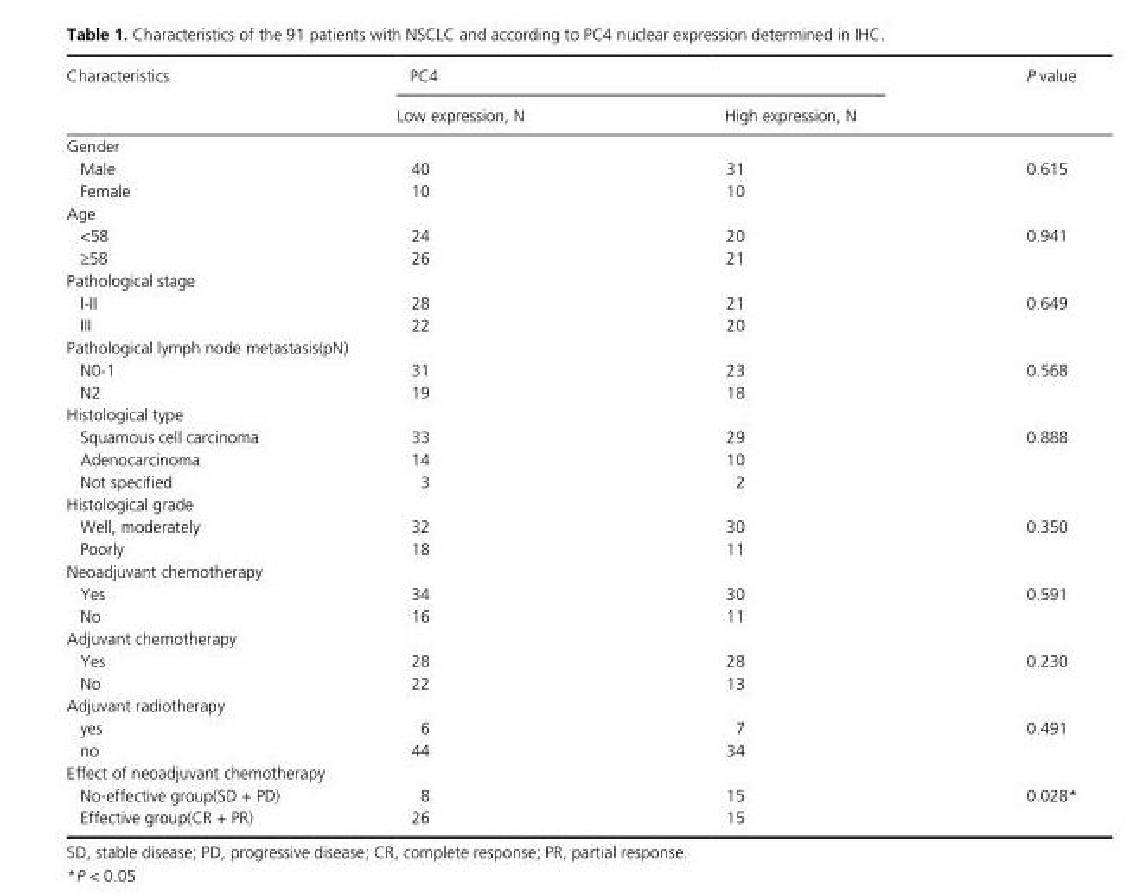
<table><thead><tr><td rowspan="2">Characteristics</td><td colspan="2">PC4</td><td rowspan="2">P value</td></tr><tr><td>Low expression, N</td><td>High expression, N</td></tr></thead><tbody><tr><td colspan="4">Gender</td></tr><tr><td>Male</td><td>40</td><td>31</td><td rowspan="2">0.615</td></tr><tr><td>Female</td><td>10</td><td>10</td></tr><tr><td colspan="4">Age</td></tr><tr><td>&lt;58</td><td>24</td><td>20</td><td rowspan="2">0.941</td></tr><tr><td>≥58</td><td>26</td><td>21</td></tr><tr><td colspan="4">Pathological stage</td></tr><tr><td>I- II</td><td>28</td><td>21</td><td rowspan="2">0.649</td></tr><tr><td>III</td><td>22</td><td>20</td></tr><tr><td colspan="4">Pathological lymph node metastasis(pN)</td></tr><tr><td>N0- 1</td><td>31</td><td>23</td><td rowspan="2">0.568</td></tr><tr><td>N2</td><td>19</td><td>18</td></tr><tr><td colspan="4">Histological type</td></tr><tr><td>Squamous cell carcinoma</td><td>33</td><td>29</td><td rowspan="3">0.888</td></tr><tr><td>Adenocarcinoma</td><td>14</td><td>10</td></tr><tr><td>Not specified</td><td>3</td><td>2</td></tr><tr><td colspan="4">Histological grade</td></tr><tr><td>Well, moderately</td><td>32</td><td>30</td><td rowspan="2">0.350</td></tr><tr><td>Poorly</td><td>18</td><td>11</td></tr><tr><td colspan="4">Neoadjuvant chemotherapy</td></tr><tr><td>Yes</td><td>34</td><td>30</td><td rowspan="2">0.591</td></tr><tr><td>No</td><td>16</td><td>11</td></tr><tr><td colspan="4">Adjuvant chemotherapy</td></tr><tr><td>Yes</td><td>28</td><td>28</td><td rowspan="2">0.230</td></tr><tr><td>No</td><td>22</td><td>13</td></tr><tr><td colspan="4">Adjuvant radiotherapy</td></tr><tr><td>yes</td><td>6</td><td>7</td><td rowspan="2">0.491</td></tr><tr><td>no</td><td>44</td><td>34</td></tr><tr><td colspan="4">Effect of neoadjuvant chemotherapy</td></tr><tr><td>No- effective group(SD + PD)</td><td>8</td><td>15</td><td rowspan="2">0.028*</td></tr><tr><td>Effective group(CR + PR)</td><td>26</td><td>15</td></tr></tbody></table>